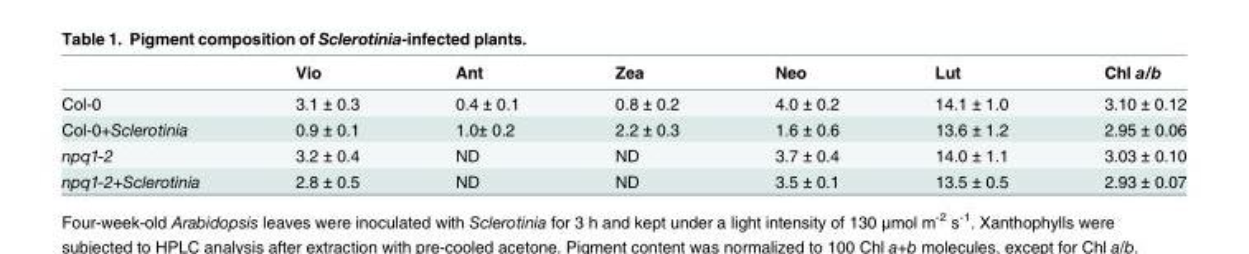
<table><thead><tr><td></td><td>Vio</td><td>Ant</td><td>Zea</td><td>Neo</td><td>Lut</td><td>Chl a/b</td></tr></thead><tbody><tr><td>Col-0</td><td>3.1 ± 0.3</td><td>0.4 ± 0.1</td><td>0.8 ± 0.2</td><td>4.0 ± 0.2</td><td>14.1 ± 1.0</td><td>3.10 ± 0.12</td></tr><tr><td>Col-0+Sclerotinia</td><td>0.9 ± 0.1</td><td>1.0± 0.2</td><td>2.2 ± 0.3</td><td>1.6 ± 0.6</td><td>13.6 ± 1.2</td><td>2.95 ± 0.06</td></tr><tr><td>npq1-2</td><td>3.2 ± 0.4</td><td>ND</td><td>ND</td><td>3.7 ± 0.4</td><td>14.0 ± 1.1</td><td>3.03 ± 0.10</td></tr><tr><td>npq1-2+Sclerotinia</td><td>2.8 ± 0.5</td><td>ND</td><td>ND</td><td>3.5 ± 0.1</td><td>13.5 ± 0.5</td><td>2.93 ± 0.07</td></tr></tbody></table>